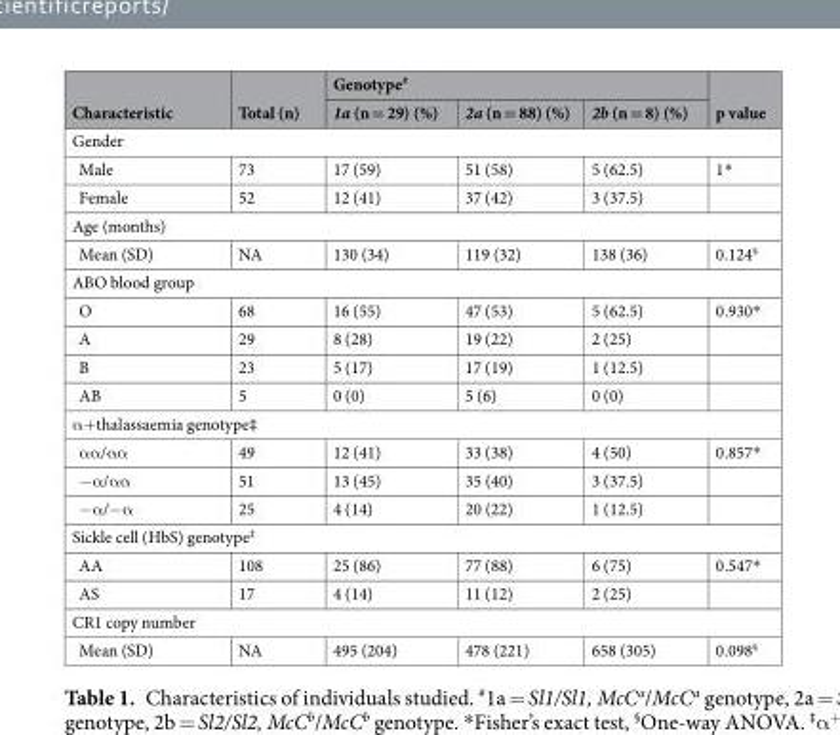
<table><thead><tr><td rowspan="2">Characteristic</td><td rowspan="2">Total (n)</td><td colspan="3">Genotype<sup>#</sup></td><td rowspan="2">p value</td></tr><tr><td>1a (n = 29) (%)</td><td>2a (n = 88) (%)</td><td>2b (n = 8) (%)</td></tr></thead><tbody><tr><td colspan="6">Gender</td></tr><tr><td>Male</td><td>73</td><td>17 (59)</td><td>51 (58)</td><td>5 (62.5)</td><td>1*</td></tr><tr><td>Female</td><td>52</td><td>12 (41)</td><td>37 (42)</td><td>3 (37.5)</td><td></td></tr><tr><td colspan="6">Age (months)</td></tr><tr><td>Mean (SD)</td><td>NA</td><td>130 (34)</td><td>119 (32)</td><td>138 (36)</td><td>0.124<sup>§</sup></td></tr><tr><td colspan="6">ABO blood group</td></tr><tr><td>O</td><td>68</td><td>16 (55)</td><td>47 (53)</td><td>5 (62.5)</td><td>0.930*</td></tr><tr><td>A</td><td>29</td><td>8 (28)</td><td>19 (22)</td><td>2 (25)</td><td></td></tr><tr><td>B</td><td>23</td><td>5 (17)</td><td>17 (19)</td><td>1 (12.5)</td><td></td></tr><tr><td>AB</td><td>5</td><td>0 (0)</td><td>5 (6)</td><td>0 (0)</td><td></td></tr><tr><td colspan="6">α+thalassaemia genotype‡</td></tr><tr><td>αα/αα</td><td>49</td><td>12 (41)</td><td>33 (38)</td><td>4 (50)</td><td>0.857*</td></tr><tr><td>−α/αα</td><td>51</td><td>13 (45)</td><td>35 (40)</td><td>3 (37.5)</td><td></td></tr><tr><td>−α/−α</td><td>25</td><td>4 (14)</td><td>20 (22)</td><td>1 (12.5)</td><td></td></tr><tr><td colspan="6">Sickle cell (HbS) genotype<sup>‡</sup></td></tr><tr><td>AA</td><td>108</td><td>25 (86)</td><td>77 (88)</td><td>6 (75)</td><td>0.547*</td></tr><tr><td>AS</td><td>17</td><td>4 (14)</td><td>11 (12)</td><td>2 (25)</td><td></td></tr><tr><td colspan="6">CR1 copy number</td></tr><tr><td>Mean (SD)</td><td>NA</td><td>495 (204)</td><td>478 (221)</td><td>658 (305)</td><td>0.098<sup>§</sup></td></tr></tbody></table>